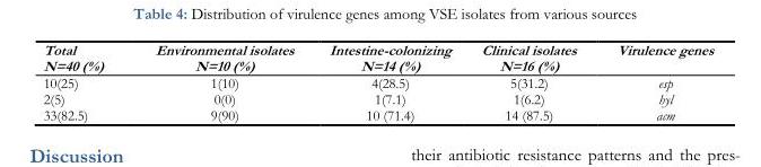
<table><thead><tr><td>Total N=40 (%)</td><td>Environmental isolates N=10 (%)</td><td>Intestine-colonizing N=14 (%)</td><td>Clinical isolates N=16 (%)</td><td>Virulence genes</td></tr></thead><tbody><tr><td>10(25)</td><td>1(10)</td><td>4(28.5)</td><td>5(31.2)</td><td>esp</td></tr><tr><td>2(5)</td><td>0(0)</td><td>1(7.1)</td><td>1(6.2)</td><td>hyl</td></tr><tr><td>33(82.5)</td><td>9(90)</td><td>10 (71.4)</td><td>14 (87.5)</td><td>acm</td></tr></tbody></table>